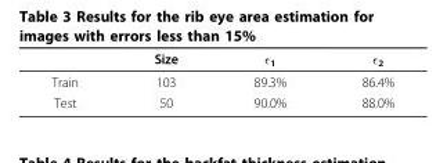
<table><thead><tr><td></td><td>Size</td><td>ϵ<sub>1</sub></td><td>ϵ<sub>2</sub></td></tr></thead><tbody><tr><td>Train</td><td>103</td><td>89.3%</td><td>86.4%</td></tr><tr><td>Test</td><td>50</td><td>90.0%</td><td>88.0%</td></tr></tbody></table>